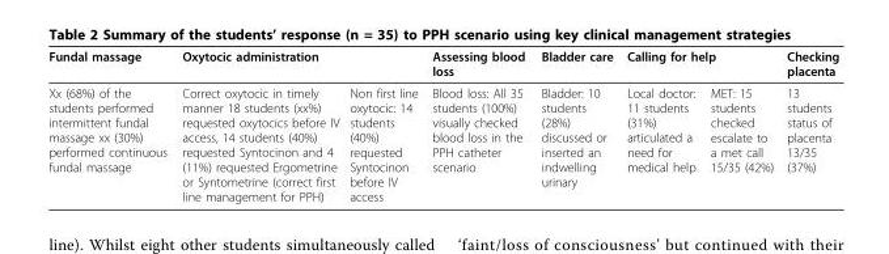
<table><thead><tr><td rowspan="2">Fundal massage Xx (68%) of the students performed intermittent fundal massage xx (30%) performed continuous fundal massage</td><td rowspan="2">Oxytocic administration Correct oxytocic in timely manner 18 students (xx%) requested oxytocics before IV access, 14 students (40%) requested Syntocinon and 4 (11%) requested Ergometrine or Syntometrine (correct first line management for PPH)</td><td rowspan="2">Non first line oxytocic: 14 students (40%) requested Syntocinon before IV access</td><td rowspan="2">Assessing blood loss Blood loss: All 35 students (100%) visually checked blood loss in the PPH catheter scenario</td><td rowspan="2">Bladder care Bladder: 10 students (28%) discussed or inserted an indwelling urinary</td><td colspan="2">Calling for help</td><td rowspan="2">Checking placenta 13 students status of placenta 13/35 (37%)</td></tr><tr><td>Local doctor: 11 students (31%) articulated a need for medical help</td><td>MET: 15 students checked escalate to a met call 15/35 (42%)</td></tr></thead><tbody></tbody></table>